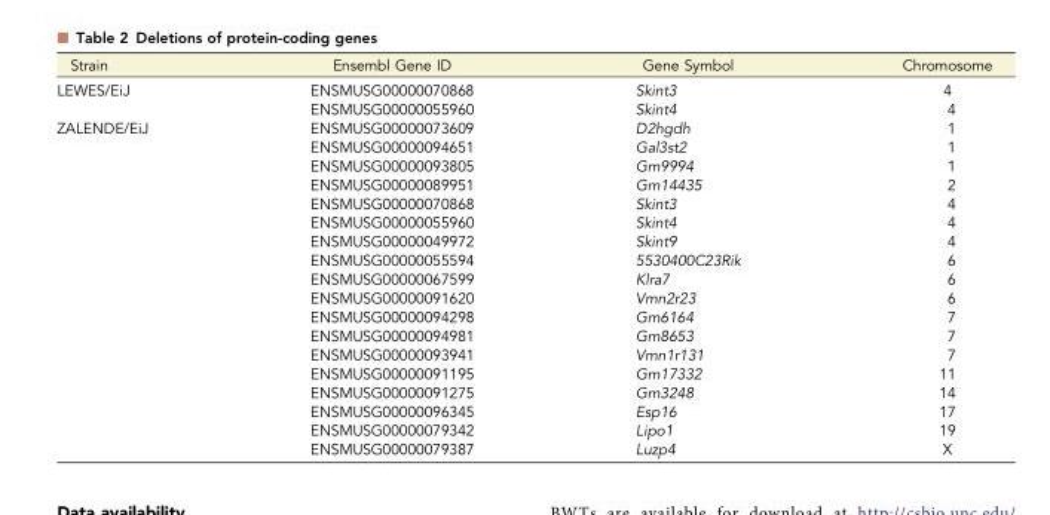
<table><thead><tr><td>Strain</td><td>Ensembl Gene ID</td><td>Gene Symbol</td><td>Chromosome</td></tr></thead><tbody><tr><td rowspan="2">LEWES/EiJ</td><td>ENSMUSG00000070868</td><td>Skint3</td><td>4</td></tr><tr><td>ENSMUSG00000055960</td><td>Skint4</td><td>4</td></tr><tr><td rowspan="18">ZALENDE/EiJ</td><td>ENSMUSG00000073609</td><td>D2hgdh</td><td>1</td></tr><tr><td>ENSMUSG00000094651</td><td>Gal3st2</td><td>1</td></tr><tr><td>ENSMUSG00000093805</td><td>Gm9994</td><td>1</td></tr><tr><td>ENSMUSG00000089951</td><td>Gm14435</td><td>2</td></tr><tr><td>ENSMUSG00000070868</td><td>Skint3</td><td>4</td></tr><tr><td>ENSMUSG00000055960</td><td>Skint4</td><td>4</td></tr><tr><td>ENSMUSG00000049972</td><td>Skint9</td><td>4</td></tr><tr><td>ENSMUSG00000055594</td><td>5530400C23Rik</td><td>6</td></tr><tr><td>ENSMUSG00000067599</td><td>Klra7</td><td>6</td></tr><tr><td>ENSMUSG00000091620</td><td>Vmn2r23</td><td>6</td></tr><tr><td>ENSMUSG00000094298</td><td>Gm6164</td><td>7</td></tr><tr><td>ENSMUSG00000094981</td><td>Gm8653</td><td>7</td></tr><tr><td>ENSMUSG00000093941</td><td>Vmn1r131</td><td>7</td></tr><tr><td>ENSMUSG00000091195</td><td>Gm17332</td><td>11</td></tr><tr><td>ENSMUSG00000091275</td><td>Gm3248</td><td>14</td></tr><tr><td>ENSMUSG00000096345</td><td>Esp16</td><td>17</td></tr><tr><td>ENSMUSG00000079342</td><td>Lipo1</td><td>19</td></tr><tr><td>ENSMUSG00000079387</td><td>Luzp4</td><td>X</td></tr></tbody></table>